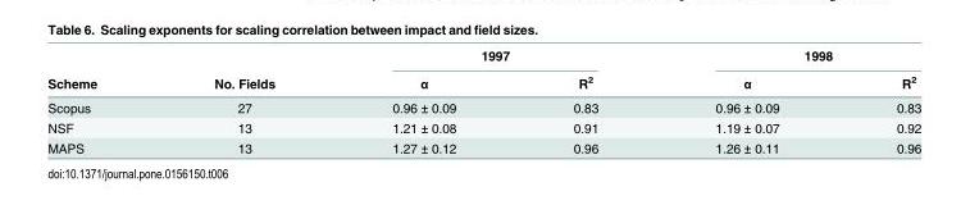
<table><thead><tr><td rowspan="2">Scheme</td><td rowspan="2">No. Fields</td><td colspan="2">1997</td><td colspan="2">1998</td></tr><tr><td>α</td><td>R<sup>2</sup></td><td>α</td><td>R<sup>2</sup></td></tr></thead><tbody><tr><td>Scopus</td><td>27</td><td>0.96 ± 0.09</td><td>0.83</td><td>0.96 ± 0.09</td><td>0.83</td></tr><tr><td>NSF</td><td>13</td><td>1.21 ± 0.08</td><td>0.91</td><td>1.19 ± 0.07</td><td>0.92</td></tr><tr><td>MAPS</td><td>13</td><td>1.27 ± 0.12</td><td>0.96</td><td>1.26 ± 0.11</td><td>0.96</td></tr></tbody></table>